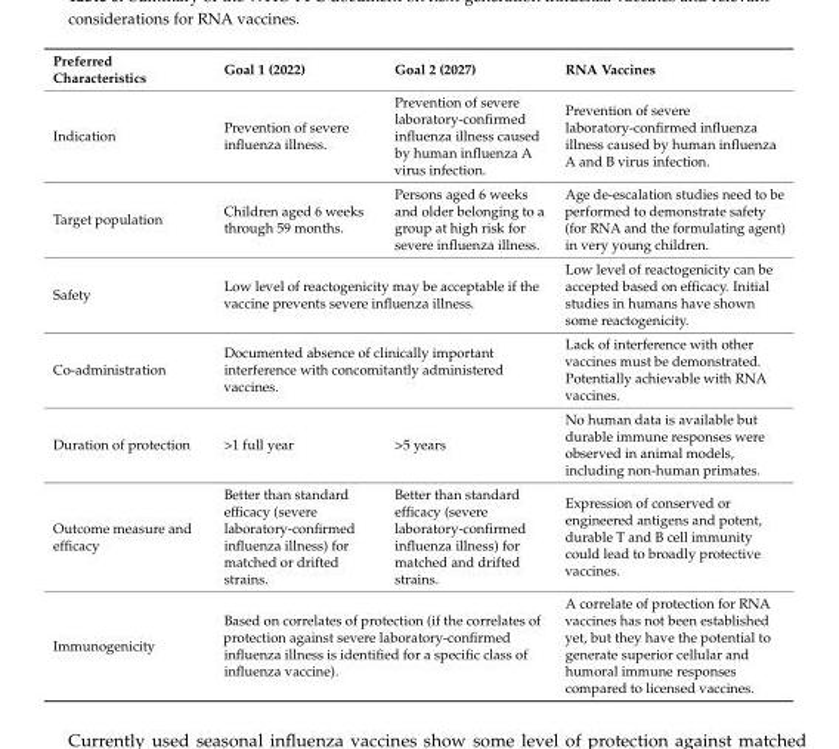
<table><thead><tr><td>Preferred Characteristics</td><td>Goal 1 (2022)</td><td>Goal 2 (2027)</td><td>RNA Vaccines</td></tr></thead><tbody><tr><td>Indication</td><td>Prevention of severe influenza illness.</td><td>Prevention of severe laboratory-confirmed influenza illness caused by human influenza A virus infection.</td><td>Prevention of severe laboratory-confirmed influenza illness caused by human influenza A and B virus infection.</td></tr><tr><td>Target population</td><td>Children aged 6 weeks through 59 months.</td><td>Persons aged 6 weeks and older belonging to a group at high risk for severe influenza illness.</td><td>Age de-escalation studies need to be performed to demonstrate safety (for RNA and the formulating agent) in very young children.</td></tr><tr><td>Safety</td><td colspan="2">Low level of reactogenicity may be acceptable if the vaccine prevents severe influenza illness.</td><td>Low level of reactogenicity can be accepted based on efficacy. Initial studies in humans have shown some reactogenicity.</td></tr><tr><td>Co-administration</td><td colspan="2">Documented absence of clinically important interference with concomitantly administered vaccines.</td><td>Lack of interference with other vaccines must be demonstrated. Potentially achievable with RNA vaccines.</td></tr><tr><td>Duration of protection</td><td>&gt;1 full year</td><td>&gt;5 years</td><td>No human data is available but durable immune responses were observed in animal models, including non-human primates.</td></tr><tr><td>Outcome measure and efficacy</td><td>Better than standard efficacy (severe laboratory-confirmed influenza illness) for matched or drifted strains.</td><td>Better than standard efficacy (severe laboratory-confirmed influenza illness) for matched and drifted strains.</td><td>Expression of conserved or engineered antigens and potent, durable T and B cell immunity could lead to broadly protective vaccines.</td></tr><tr><td>Immunogenicity</td><td colspan="2">Based on correlates of protection (if the correlates of protection against severe laboratory-confirmed influenza illness is identified for a specific class of influenza vaccine).</td><td>A correlate of protection for RNA vaccines has not been established yet, but they have the potential to generate superior cellular and humoral immune responses compared to licensed vaccines.</td></tr></tbody></table>